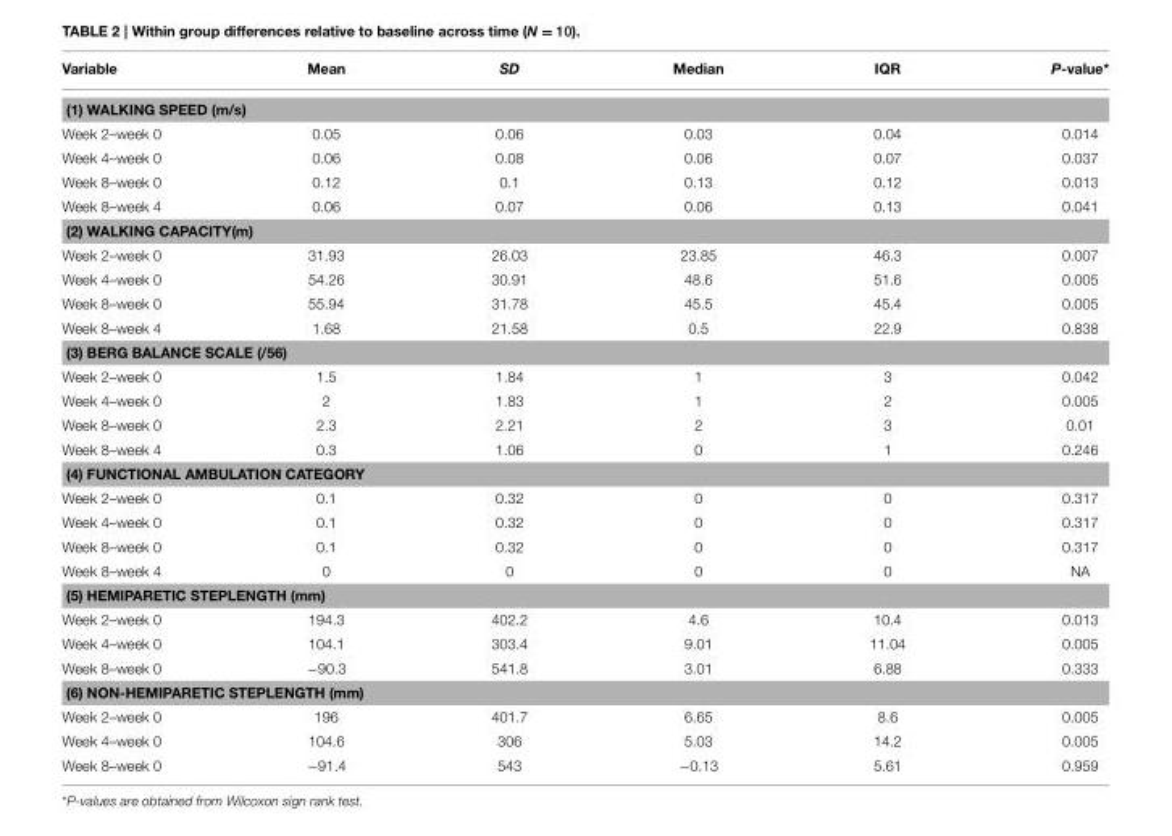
<table><thead><tr><td>Variable</td><td>Mean</td><td>SD</td><td>Median</td><td>IQR</td><td>P-value*</td></tr></thead><tbody><tr><td colspan="6">(1) WALKING SPEED (m/s)</td></tr><tr><td>Week 2–week 0</td><td>0.05</td><td>0.06</td><td>0.03</td><td>0.04</td><td>0.014</td></tr><tr><td>Week 4–week 0</td><td>0.06</td><td>0.08</td><td>0.06</td><td>0.07</td><td>0.037</td></tr><tr><td>Week 8–week 0</td><td>0.12</td><td>0.1</td><td>0.13</td><td>0.12</td><td>0.013</td></tr><tr><td>Week 8–week 4</td><td>0.06</td><td>0.07</td><td>0.06</td><td>0.13</td><td>0.041</td></tr><tr><td colspan="6">(2) WALKING CAPACITY(m)</td></tr><tr><td>Week 2–week 0</td><td>31.93</td><td>26.03</td><td>23.85</td><td>46.3</td><td>0.007</td></tr><tr><td>Week 4–week 0</td><td>54.26</td><td>30.91</td><td>48.6</td><td>51.6</td><td>0.005</td></tr><tr><td>Week 8–week 0</td><td>55.94</td><td>31.78</td><td>45.5</td><td>45.4</td><td>0.005</td></tr><tr><td>Week 8–week 4</td><td>1.68</td><td>21.58</td><td>0.5</td><td>22.9</td><td>0.838</td></tr><tr><td colspan="6">(3) BERG BALANCE SCALE (/56)</td></tr><tr><td>Week 2–week 0</td><td>1.5</td><td>1.84</td><td>1</td><td>3</td><td>0.042</td></tr><tr><td>Week 4–week 0</td><td>2</td><td>1.83</td><td>1</td><td>2</td><td>0.005</td></tr><tr><td>Week 8–week 0</td><td>2.3</td><td>2.21</td><td>2</td><td>3</td><td>0.01</td></tr><tr><td>Week 8–week 4</td><td>0.3</td><td>1.06</td><td>0</td><td>1</td><td>0.246</td></tr><tr><td colspan="6">(4) FUNCTIONAL AMBULATION CATEGORY</td></tr><tr><td>Week 2–week 0</td><td>0.1</td><td>0.32</td><td>0</td><td>0</td><td>0.317</td></tr><tr><td>Week 4–week 0</td><td>0.1</td><td>0.32</td><td>0</td><td>0</td><td>0.317</td></tr><tr><td>Week 8–week 0</td><td>0.1</td><td>0.32</td><td>0</td><td>0</td><td>0.317</td></tr><tr><td>Week 8–week 4</td><td>0</td><td>0</td><td>0</td><td>0</td><td>NA</td></tr><tr><td colspan="6">(5) HEMIPARETIC STEPLENGTH (mm)</td></tr><tr><td>Week 2–week 0</td><td>194.3</td><td>402.2</td><td>4.6</td><td>10.4</td><td>0.013</td></tr><tr><td>Week 4–week 0</td><td>104.1</td><td>303.4</td><td>9.01</td><td>11.04</td><td>0.005</td></tr><tr><td>Week 8–week 0</td><td>−90.3</td><td>541.8</td><td>3.01</td><td>6.88</td><td>0.333</td></tr><tr><td colspan="6">(6) NON-HEMIPARETIC STEPLENGTH (mm)</td></tr><tr><td>Week 2–week 0</td><td>196</td><td>401.7</td><td>6.65</td><td>8.6</td><td>0.005</td></tr><tr><td>Week 4–week 0</td><td>104.6</td><td>306</td><td>5.03</td><td>14.2</td><td>0.005</td></tr><tr><td>Week 8–week 0</td><td>−91.4</td><td>543</td><td>−0.13</td><td>5.61</td><td>0.959</td></tr></tbody></table>